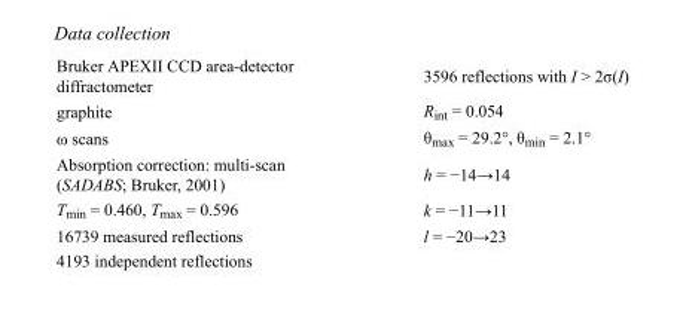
<table><tbody><tr><td>Bruker APEXII CCD area-detector diffractometer</td><td>3596 reflections with I &gt; 2σ(I)</td></tr><tr><td>graphite</td><td>R<sub>int</sub> = 0.054</td></tr><tr><td>ω scans</td><td>θ<sub>max</sub> = 29.2°, θ<sub>min</sub> = 2.1°</td></tr><tr><td>Absorption correction: multi-scan (SADABS; Bruker, 2001)</td><td>h = −14→14</td></tr><tr><td>T<sub>min</sub> = 0.460, T<sub>max</sub> = 0.596</td><td>k = −11→11</td></tr><tr><td>16739 measured reflections</td><td>l = −20→23</td></tr><tr><td>4193 independent reflections</td><td></td></tr></tbody></table>